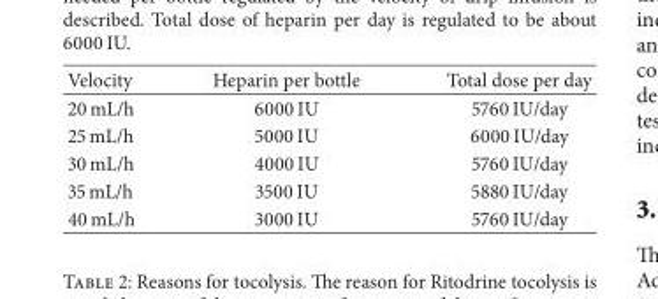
<table><thead><tr><td>Velocity</td><td>Heparin per bottle</td><td>Total dose per day</td></tr></thead><tbody><tr><td>20 mL/h</td><td>6000 IU</td><td>5760 IU/day</td></tr><tr><td>25 mL/h</td><td>5000 IU</td><td>6000 IU/day</td></tr><tr><td>30 mL/h</td><td>4000 IU</td><td>5760 IU/day</td></tr><tr><td>35 mL/h</td><td>3500 IU</td><td>5880 IU/day</td></tr><tr><td>40 mL/h</td><td>3000 IU</td><td>5760 IU/day</td></tr></tbody></table>